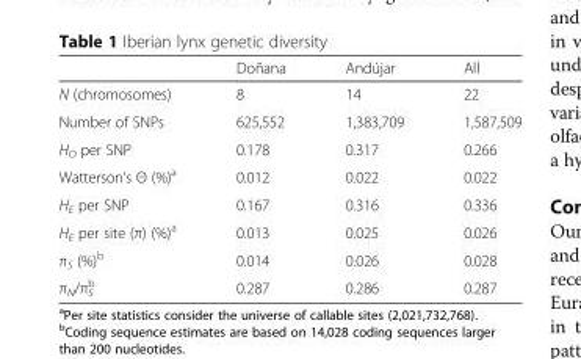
<table><thead><tr><td></td><td>Doñana</td><td>Andújar</td><td>All</td></tr></thead><tbody><tr><td>N (chromosomes)</td><td>8</td><td>14</td><td>22</td></tr><tr><td>Number of SNPs</td><td>625,552</td><td>1,383,709</td><td>1,587,509</td></tr><tr><td>H<sub>O</sub> per SNP</td><td>0.178</td><td>0.317</td><td>0.266</td></tr><tr><td>Watterson’s Θ (%)<sup>a</sup></td><td>0.012</td><td>0.022</td><td>0.022</td></tr><tr><td>H<sub>E</sub> per SNP</td><td>0.167</td><td>0.316</td><td>0.336</td></tr><tr><td>H<sub>E</sub> per site (π) (%)<sup>a</sup></td><td>0.013</td><td>0.025</td><td>0.026</td></tr><tr><td>π<sub>S</sub> (%)<sup>b</sup></td><td>0.014</td><td>0.026</td><td>0.028</td></tr><tr><td>π<sub>N</sub>/π<sub>S</sub> <sup>b</sup></td><td>0.287</td><td>0.286</td><td>0.287</td></tr></tbody></table>